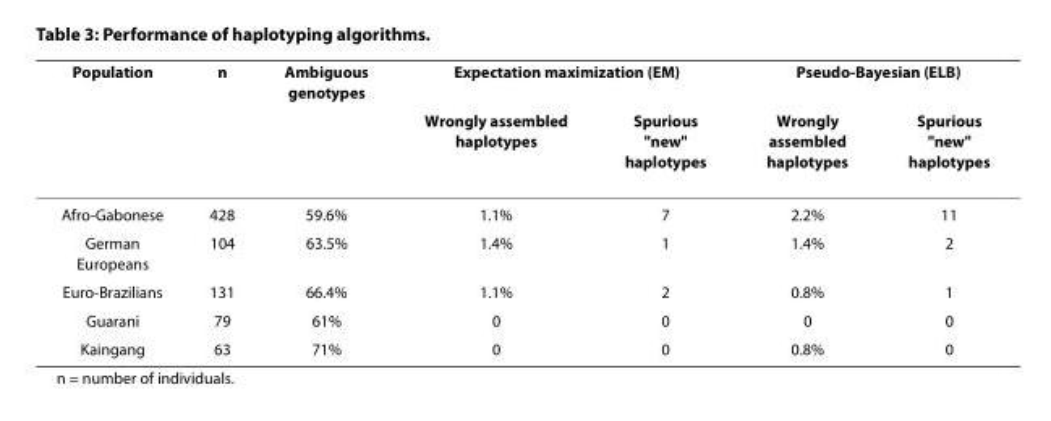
<table><thead><tr><td rowspan="2">Population</td><td rowspan="2">n</td><td rowspan="2">Ambiguous genotypes</td><td colspan="2">Expectation maximization (EM)</td><td colspan="2">Pseudo-Bayesian (ELB)</td></tr><tr><td>Wrongly assembled haplotypes</td><td>Spurious &quot;new&quot; haplotypes</td><td>Wrongly assembled haplotypes</td><td>Spurious &quot;new&quot; haplotypes</td></tr></thead><tbody><tr><td>Afro-Gabonese</td><td>428</td><td>59.6%</td><td>1.1%</td><td>7</td><td>2.2%</td><td>11</td></tr><tr><td>German Europeans</td><td>104</td><td>63.5%</td><td>1.4%</td><td>1</td><td>1.4%</td><td>2</td></tr><tr><td>Euro-Brazilians</td><td>131</td><td>66.4%</td><td>1.1%</td><td>2</td><td>0.8%</td><td>1</td></tr><tr><td>Guarani</td><td>79</td><td>61%</td><td>0</td><td>0</td><td>0</td><td>0</td></tr><tr><td>Kaingang</td><td>63</td><td>71%</td><td>0</td><td>0</td><td>0.8%</td><td>0</td></tr></tbody></table>